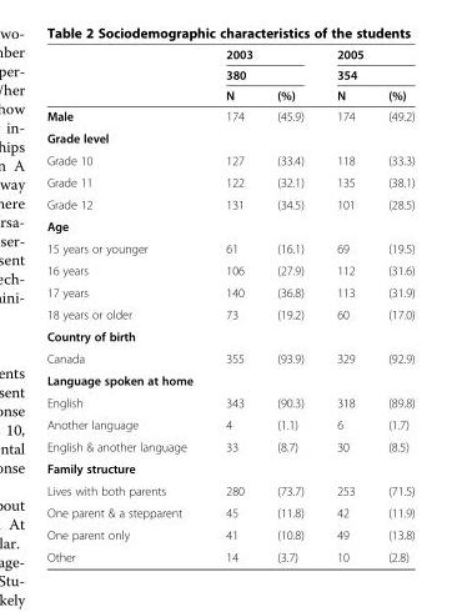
<table><thead><tr><td rowspan="3"></td><td rowspan="2" colspan="2">2003 380</td><td rowspan="2" colspan="2">2005 354</td></tr><tr></tr><tr><td>N</td><td>(%)</td><td>N</td><td>(%)</td></tr></thead><tbody><tr><td>Male</td><td>174</td><td>(45.9)</td><td>174</td><td>(49.2)</td></tr><tr><td colspan="5">Grade level</td></tr><tr><td>Grade 10</td><td>127</td><td>(33.4)</td><td>118</td><td>(33.3)</td></tr><tr><td>Grade 11</td><td>122</td><td>(32.1)</td><td>135</td><td>(38.1)</td></tr><tr><td>Grade 12</td><td>131</td><td>(34.5)</td><td>101</td><td>(28.5)</td></tr><tr><td colspan="5">Age</td></tr><tr><td>15 years or younger</td><td>61</td><td>(16.1)</td><td>69</td><td>(19.5)</td></tr><tr><td>16 years</td><td>106</td><td>(27.9)</td><td>112</td><td>(31.6)</td></tr><tr><td>17 years</td><td>140</td><td>(36.8)</td><td>113</td><td>(31.9)</td></tr><tr><td>18 years or older</td><td>73</td><td>(19.2)</td><td>60</td><td>(17.0)</td></tr><tr><td colspan="5">Country of birth</td></tr><tr><td>Canada</td><td>355</td><td>(93.9)</td><td>329</td><td>(92.9)</td></tr><tr><td colspan="5">Language spoken at home</td></tr><tr><td>English</td><td>343</td><td>(90.3)</td><td>318</td><td>(89.8)</td></tr><tr><td>Another language</td><td>4</td><td>(1.1)</td><td>6</td><td>(1.7)</td></tr><tr><td>English &amp; another language</td><td>33</td><td>(8.7)</td><td>30</td><td>(8.5)</td></tr><tr><td colspan="5">Family structure</td></tr><tr><td>Lives with both parents</td><td>280</td><td>(73.7)</td><td>253</td><td>(71.5)</td></tr><tr><td>One parent &amp; a stepparent</td><td>45</td><td>(11.8)</td><td>42</td><td>(11.9)</td></tr><tr><td>One parent only</td><td>41</td><td>(10.8)</td><td>49</td><td>(13.8)</td></tr><tr><td>Other</td><td>14</td><td>(3.7)</td><td>10</td><td>(2.8)</td></tr></tbody></table>